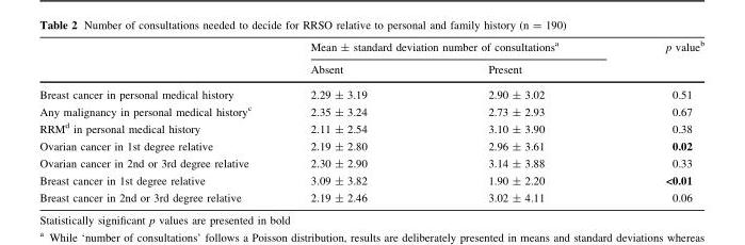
<table><thead><tr><td rowspan="2"></td><td colspan="2">Mean ± standard deviation number of consultations<sup>a</sup></td><td rowspan="2">p value<sup>b</sup></td></tr><tr><td>Absent</td><td>Present</td></tr></thead><tbody><tr><td>Breast cancer in personal medical history</td><td>2.29 ± 3.19</td><td>2.90 ± 3.02</td><td>0.51</td></tr><tr><td>Any malignancy in personal medical history<sup>c</sup></td><td>2.35 ± 3.24</td><td>2.73 ± 2.93</td><td>0.67</td></tr><tr><td>RRM<sup>d</sup> in personal medical history</td><td>2.11 ± 2.54</td><td>3.10 ± 3.90</td><td>0.38</td></tr><tr><td>Ovarian cancer in 1st degree relative</td><td>2.19 ± 2.80</td><td>2.96 ± 3.61</td><td>0.02</td></tr><tr><td>Ovarian cancer in 2nd or 3rd degree relative</td><td>2.30 ± 2.90</td><td>3.14 ± 3.88</td><td>0.33</td></tr><tr><td>Breast cancer in 1st degree relative</td><td>3.09 ± 3.82</td><td>1.90 ± 2.20</td><td>&lt;0.01</td></tr><tr><td>Breast cancer in 2nd or 3rd degree relative</td><td>2.19 ± 2.46</td><td>3.02 ± 4.11</td><td>0.06</td></tr></tbody></table>